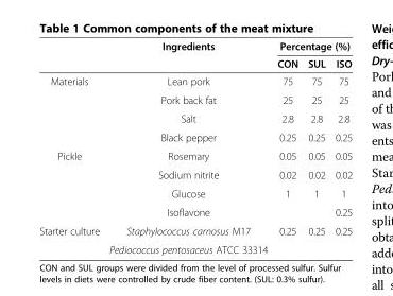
<table><thead><tr><td rowspan="2"></td><td rowspan="2">Ingredients</td><td colspan="3">Percentage (%)</td></tr><tr><td>CON</td><td>SUL</td><td>ISO</td></tr></thead><tbody><tr><td rowspan="4">Materials</td><td>Lean pork</td><td>75</td><td>75</td><td>75</td></tr><tr><td>Pork back fat</td><td>25</td><td>25</td><td>25</td></tr><tr><td>Salt</td><td>2.8</td><td>2.8</td><td>2.8</td></tr><tr><td>Black pepper</td><td>0.25</td><td>0.25</td><td>0.25</td></tr><tr><td rowspan="4">Pickle</td><td>Rosemary</td><td>0.05</td><td>0.05</td><td>0.05</td></tr><tr><td>Sodium nitrite</td><td>0.02</td><td>0.02</td><td>0.02</td></tr><tr><td>Glucose</td><td>1</td><td>1</td><td>1</td></tr><tr><td>Isoflavone</td><td></td><td></td><td>0.25</td></tr><tr><td rowspan="2">Starter culture</td><td>Staphylococcus carnosus M17</td><td rowspan="2">0.25</td><td rowspan="2">0.25</td><td rowspan="2">0.25</td></tr><tr><td>Pediococcus pentosaceus ATCC 33314</td></tr></tbody></table>